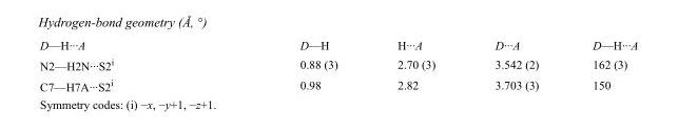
<table><tbody><tr><td>D—H···A</td><td>D—H</td><td>H···A</td><td>D···A</td><td>D—H···A</td></tr><tr><td>N2—H2N···S2<sup>i</sup></td><td>0.88 (3)</td><td>2.70 (3)</td><td>3.542 (2)</td><td>162 (3)</td></tr><tr><td>C7—H7A···S2<sup>i</sup></td><td>0.98</td><td>2.82</td><td>3.703 (3)</td><td>150</td></tr></tbody></table>